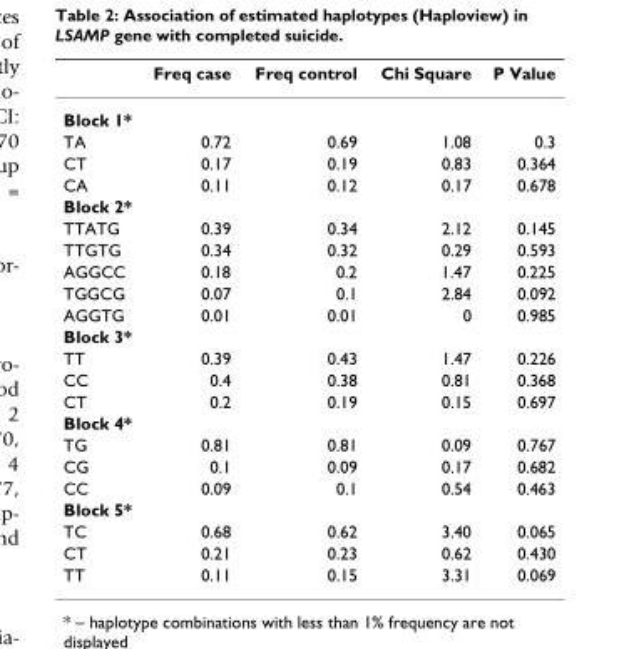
<table><thead><tr><td></td><td>Freq case</td><td>Freq control</td><td>Chi Square</td><td>P Value</td></tr></thead><tbody><tr><td colspan="5">Block 1*</td></tr><tr><td>TA</td><td>0.72</td><td>0.69</td><td>1.08</td><td>0.3</td></tr><tr><td>CT</td><td>0.17</td><td>0.19</td><td>0.83</td><td>0.364</td></tr><tr><td>CA</td><td>0.11</td><td>0.12</td><td>0.17</td><td>0.678</td></tr><tr><td colspan="5">Block 2*</td></tr><tr><td>TTATG</td><td>0.39</td><td>0.34</td><td>2.12</td><td>0.145</td></tr><tr><td>TTGTG</td><td>0.34</td><td>0.32</td><td>0.29</td><td>0.593</td></tr><tr><td>AGGCC</td><td>0.18</td><td>0.2</td><td>1.47</td><td>0.225</td></tr><tr><td>TGGCG</td><td>0.07</td><td>0.1</td><td>2.84</td><td>0.092</td></tr><tr><td>AGGTG</td><td>0.01</td><td>0.01</td><td>0</td><td>0.985</td></tr><tr><td colspan="5">Block 3*</td></tr><tr><td>TT</td><td>0.39</td><td>0.43</td><td>1.47</td><td>0.226</td></tr><tr><td>CC</td><td>0.4</td><td>0.38</td><td>0.81</td><td>0.368</td></tr><tr><td>CT</td><td>0.2</td><td>0.19</td><td>0.15</td><td>0.697</td></tr><tr><td colspan="5">Block 4*</td></tr><tr><td>TG</td><td>0.81</td><td>0.81</td><td>0.09</td><td>0.767</td></tr><tr><td>CG</td><td>0.1</td><td>0.09</td><td>0.17</td><td>0.682</td></tr><tr><td>CC</td><td>0.09</td><td>0.1</td><td>0.54</td><td>0.463</td></tr><tr><td colspan="5">Block 5*</td></tr><tr><td>TC</td><td>0.68</td><td>0.62</td><td>3.40</td><td>0.065</td></tr><tr><td>CT</td><td>0.21</td><td>0.23</td><td>0.62</td><td>0.430</td></tr><tr><td>TT</td><td>0.11</td><td>0.15</td><td>3.31</td><td>0.069</td></tr></tbody></table>